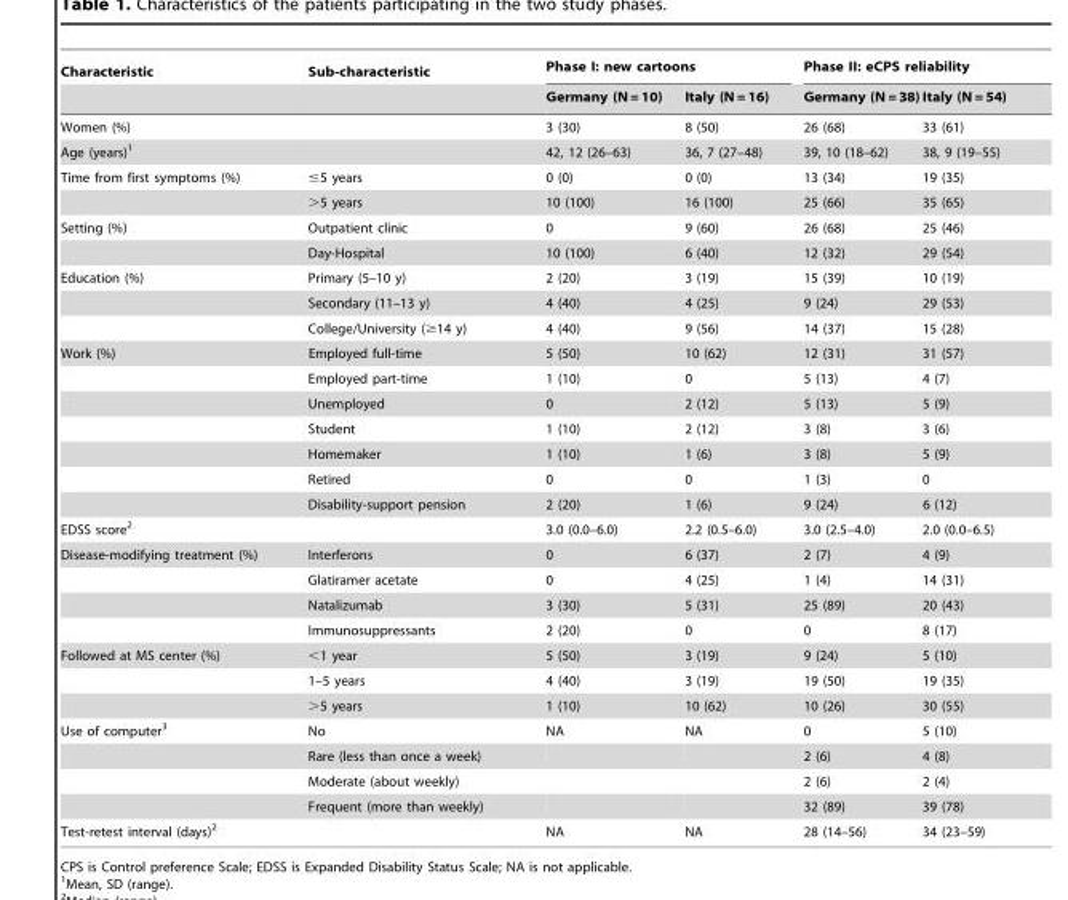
<table><thead><tr><td rowspan="2">Characteristic</td><td rowspan="2">Sub-characteristic</td><td colspan="2">Phase I: new cartoons</td><td colspan="2">Phase II: eCPS reliability</td></tr><tr><td>Germany (N = 10)</td><td>Italy (N = 16)</td><td>Germany (N = 38)</td><td>Italy (N = 54)</td></tr></thead><tbody><tr><td>Women (%)</td><td></td><td>3 (30)</td><td>8 (50)</td><td>26 (68)</td><td>33 (61)</td></tr><tr><td>Age (years)<sup>1</sup></td><td></td><td>42, 12 (26–63)</td><td>36, 7 (27–48)</td><td>39, 10 (18–62)</td><td>38, 9 (19–55)</td></tr><tr><td rowspan="2">Time from first symptoms (%)</td><td>≤5 years</td><td>0 (0)</td><td>0 (0)</td><td>13 (34)</td><td>19 (35)</td></tr><tr><td>&gt;5 years</td><td>10 (100)</td><td>16 (100)</td><td>25 (66)</td><td>35 (65)</td></tr><tr><td rowspan="2">Setting (%)</td><td>Outpatient clinic</td><td>0</td><td>9 (60)</td><td>26 (68)</td><td>25 (46)</td></tr><tr><td>Day-Hospital</td><td>10 (100)</td><td>6 (40)</td><td>12 (32)</td><td>29 (54)</td></tr><tr><td rowspan="3">Education (%)</td><td>Primary (5–10 y)</td><td>2 (20)</td><td>3 (19)</td><td>15 (39)</td><td>10 (19)</td></tr><tr><td>Secondary (11–13 y)</td><td>4 (40)</td><td>4 (25)</td><td>9 (24)</td><td>29 (53)</td></tr><tr><td>College/University (≥14 y)</td><td>4 (40)</td><td>9 (56)</td><td>14 (37)</td><td>15 (28)</td></tr><tr><td rowspan="7">Work (%)</td><td>Employed full-time</td><td>5 (50)</td><td>10 (62)</td><td>12 (31)</td><td>31 (57)</td></tr><tr><td>Employed part-time</td><td>1 (10)</td><td>0</td><td>5 (13)</td><td>4 (7)</td></tr><tr><td>Unemployed</td><td>0</td><td>2 (12)</td><td>5 (13)</td><td>5 (9)</td></tr><tr><td>Student</td><td>1 (10)</td><td>2 (12)</td><td>3 (8)</td><td>3 (6)</td></tr><tr><td>Homemaker</td><td>1 (10)</td><td>1 (6)</td><td>3 (8)</td><td>5 (9)</td></tr><tr><td>Retired</td><td>0</td><td>0</td><td>1 (3)</td><td>0</td></tr><tr><td>Disability-support pension</td><td>2 (20)</td><td>1 (6)</td><td>9 (24)</td><td>6 (12)</td></tr><tr><td>EDSS score<sup>2</sup></td><td></td><td>3.0 (0.0–6.0)</td><td>2.2 (0.5–6.0)</td><td>3.0 (2.5–4.0)</td><td>2.0 (0.0–6.5)</td></tr><tr><td rowspan="4">Disease-modifying treatment (%)</td><td>Interferons</td><td>0</td><td>6 (37)</td><td>2 (7)</td><td>4 (9)</td></tr><tr><td>Glatiramer acetate</td><td>0</td><td>4 (25)</td><td>1 (4)</td><td>14 (31)</td></tr><tr><td>Natalizumab</td><td>3 (30)</td><td>5 (31)</td><td>25 (89)</td><td>20 (43)</td></tr><tr><td>Immunosuppressants</td><td>2 (20)</td><td>0</td><td>0</td><td>8 (17)</td></tr><tr><td rowspan="3">Followed at MS center (%)</td><td>&lt;1 year</td><td>5 (50)</td><td>3 (19)</td><td>9 (24)</td><td>5 (10)</td></tr><tr><td>1–5 years</td><td>4 (40)</td><td>3 (19)</td><td>19 (50)</td><td>19 (35)</td></tr><tr><td>&gt;5 years</td><td>1 (10)</td><td>10 (62)</td><td>10 (26)</td><td>30 (55)</td></tr><tr><td rowspan="4">Use of computer<sup>3</sup></td><td>No</td><td>NA</td><td>NA</td><td>0</td><td>5 (10)</td></tr><tr><td>Rare (less than once a week)</td><td></td><td></td><td>2 (6)</td><td>4 (8)</td></tr><tr><td>Moderate (about weekly)</td><td></td><td></td><td>2 (6)</td><td>2 (4)</td></tr><tr><td>Frequent (more than weekly)</td><td></td><td></td><td>32 (89)</td><td>39 (78)</td></tr><tr><td>Test-retest interval (days)<sup>2</sup></td><td></td><td>NA</td><td>NA</td><td>28 (14–56)</td><td>34 (23–59)</td></tr></tbody></table>